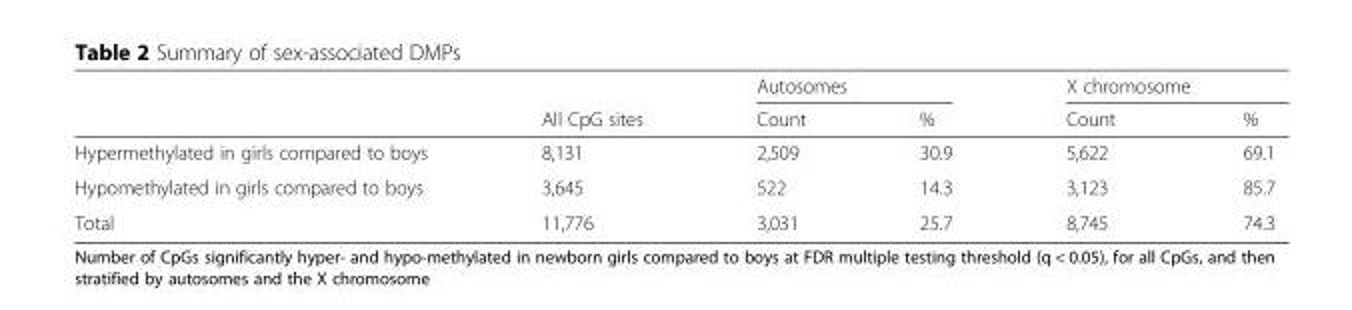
<table><thead><tr><td rowspan="2"></td><td rowspan="2">All CpG sites</td><td colspan="2">Autosomes</td><td colspan="2">X chromosome</td></tr><tr><td>Count</td><td>%</td><td>Count</td><td>%</td></tr></thead><tbody><tr><td>Hypermethylated in girls compared to boys</td><td>8,131</td><td>2,509</td><td>30.9</td><td>5,622</td><td>69.1</td></tr><tr><td>Hypomethylated in girls compared to boys</td><td>3,645</td><td>522</td><td>14.3</td><td>3,123</td><td>85.7</td></tr><tr><td>Total</td><td>11,776</td><td>3,031</td><td>25.7</td><td>8,745</td><td>74.3</td></tr></tbody></table>